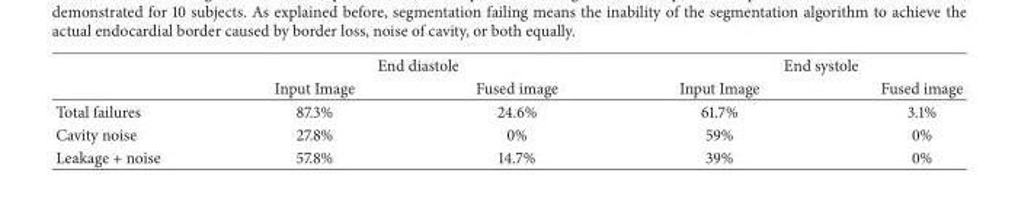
<table><thead><tr><td rowspan="2"></td><td colspan="2">End diastole</td><td colspan="2">End systole</td></tr><tr><td>Input Image</td><td>Fused image</td><td>Input Image</td><td>Fused image</td></tr></thead><tbody><tr><td>Total failures</td><td>87.3%</td><td>24.6%</td><td>61.7%</td><td>3.1%</td></tr><tr><td>Cavity noise</td><td>27.8%</td><td>0%</td><td>59%</td><td>0%</td></tr><tr><td>Leakage + noise</td><td>57.8%</td><td>14.7%</td><td>39%</td><td>0%</td></tr></tbody></table>